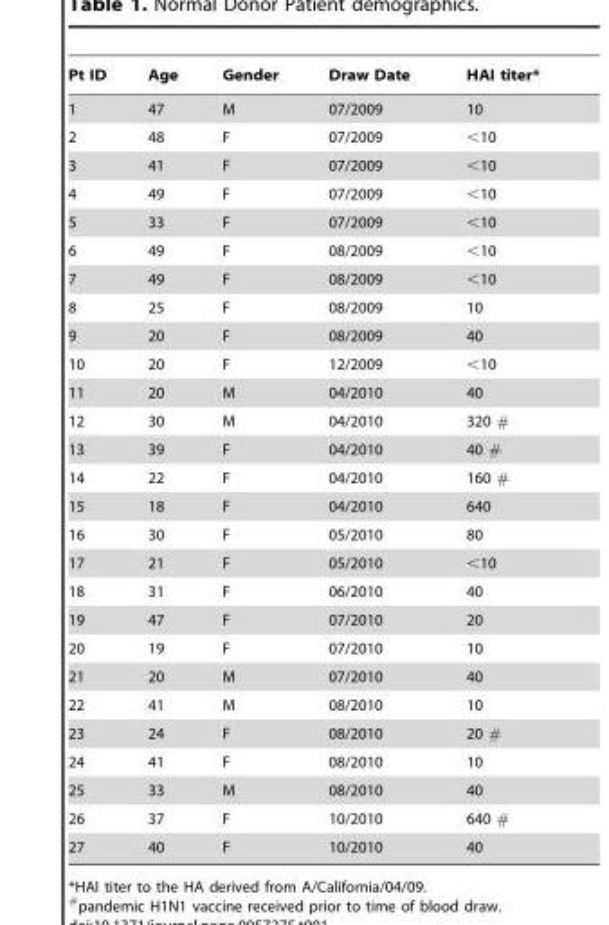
<table><thead><tr><td>Pt ID</td><td>Age</td><td>Gender</td><td>Draw Date</td><td>HAI titer*</td></tr></thead><tbody><tr><td>1</td><td>47</td><td>M</td><td>07/2009</td><td>10</td></tr><tr><td>2</td><td>48</td><td>F</td><td>07/2009</td><td>&lt;10</td></tr><tr><td>3</td><td>41</td><td>F</td><td>07/2009</td><td>&lt;10</td></tr><tr><td>4</td><td>49</td><td>F</td><td>07/2009</td><td>&lt;10</td></tr><tr><td>5</td><td>33</td><td>F</td><td>07/2009</td><td>&lt;10</td></tr><tr><td>6</td><td>49</td><td>F</td><td>08/2009</td><td>&lt;10</td></tr><tr><td>7</td><td>49</td><td>F</td><td>08/2009</td><td>&lt;10</td></tr><tr><td>8</td><td>25</td><td>F</td><td>08/2009</td><td>10</td></tr><tr><td>9</td><td>20</td><td>F</td><td>08/2009</td><td>40</td></tr><tr><td>10</td><td>20</td><td>F</td><td>12/2009</td><td>&lt;10</td></tr><tr><td>11</td><td>20</td><td>M</td><td>04/2010</td><td>40</td></tr><tr><td>12</td><td>30</td><td>M</td><td>04/2010</td><td>320 #</td></tr><tr><td>13</td><td>39</td><td>F</td><td>04/2010</td><td>40 #</td></tr><tr><td>14</td><td>22</td><td>F</td><td>04/2010</td><td>160 #</td></tr><tr><td>15</td><td>18</td><td>F</td><td>04/2010</td><td>640</td></tr><tr><td>16</td><td>30</td><td>F</td><td>05/2010</td><td>80</td></tr><tr><td>17</td><td>21</td><td>F</td><td>05/2010</td><td>&lt;10</td></tr><tr><td>18</td><td>31</td><td>F</td><td>06/2010</td><td>40</td></tr><tr><td>19</td><td>47</td><td>F</td><td>07/2010</td><td>20</td></tr><tr><td>20</td><td>19</td><td>F</td><td>07/2010</td><td>10</td></tr><tr><td>21</td><td>20</td><td>M</td><td>07/2010</td><td>40</td></tr><tr><td>22</td><td>41</td><td>M</td><td>08/2010</td><td>10</td></tr><tr><td>23</td><td>24</td><td>F</td><td>08/2010</td><td>20 #</td></tr><tr><td>24</td><td>41</td><td>F</td><td>08/2010</td><td>10</td></tr><tr><td>25</td><td>33</td><td>M</td><td>08/2010</td><td>40</td></tr><tr><td>26</td><td>37</td><td>F</td><td>10/2010</td><td>640 #</td></tr><tr><td>27</td><td>40</td><td>F</td><td>10/2010</td><td>40</td></tr></tbody></table>